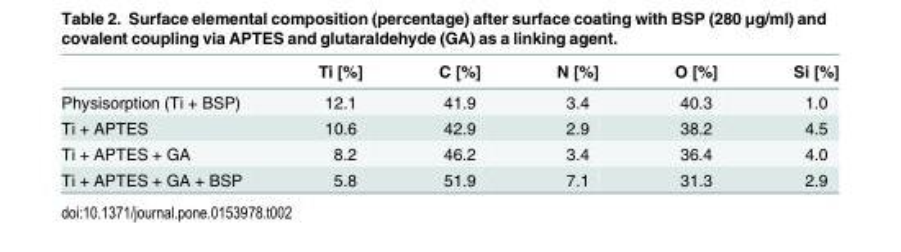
<table><thead><tr><td></td><td>Ti [%]</td><td>C [%]</td><td>N [%]</td><td>O [%]</td><td>Si [%]</td></tr></thead><tbody><tr><td>Physisorption (Ti + BSP)</td><td>12.1</td><td>41.9</td><td>3.4</td><td>40.3</td><td>1.0</td></tr><tr><td>Ti + APTES</td><td>10.6</td><td>42.9</td><td>2.9</td><td>38.2</td><td>4.5</td></tr><tr><td>Ti + APTES + GA</td><td>8.2</td><td>46.2</td><td>3.4</td><td>36.4</td><td>4.0</td></tr><tr><td>Ti + APTES + GA + BSP</td><td>5.8</td><td>51.9</td><td>7.1</td><td>31.3</td><td>2.9</td></tr></tbody></table>